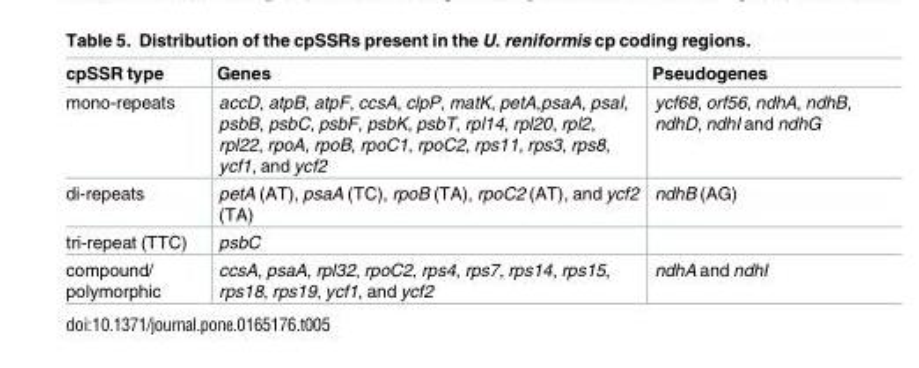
<table><thead><tr><td>cpSSR type</td><td>Genes</td><td>Pseudogenes</td></tr></thead><tbody><tr><td>mono-repeats</td><td>accD, atpB, atpF, ccsA, clpP, matK, petA,psaA, psaI, psbB, psbC, psbF, psbK, psbT, rpl14, rpl20, rpl2, rpl22, rpoA, rpoB, rpoC1, rpoC2, rps11, rps3, rps8, ycf1, and ycf2</td><td>ycf68, orf56, ndhA, ndhB, ndhD, ndhI and ndhG</td></tr><tr><td>di-repeats</td><td>petA (AT), psaA (TC), rpoB (TA), rpoC2 (AT), and ycf2 (TA)</td><td>ndhB (AG)</td></tr><tr><td>tri-repeat (TTC)</td><td>psbC</td><td></td></tr><tr><td>compound/ polymorphic</td><td>ccsA, psaA, rpl32, rpoC2, rps4, rps7, rps14, rps15, rps18, rps19, ycf1, and ycf2</td><td>ndhA and ndhI</td></tr></tbody></table>